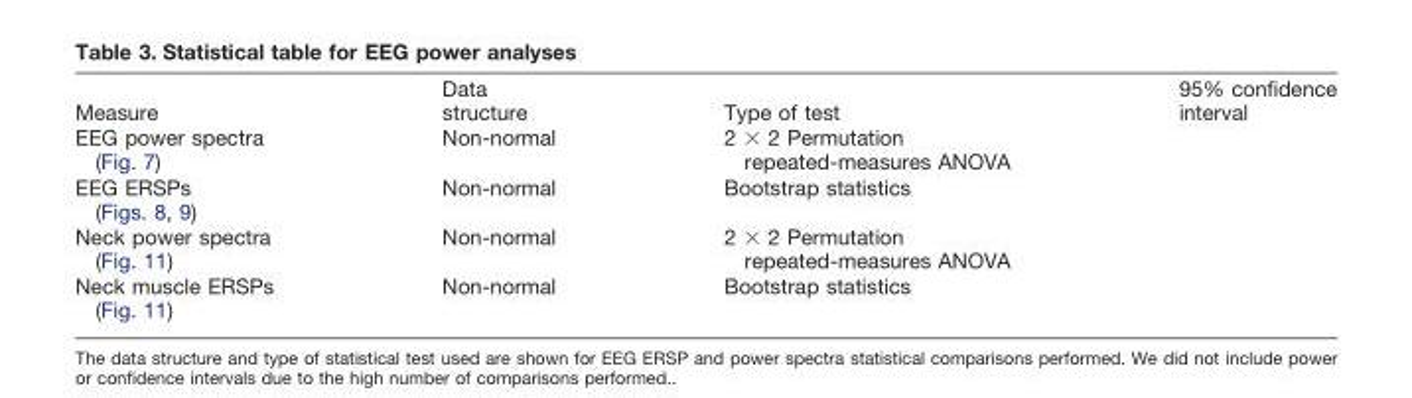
<table><thead><tr><td>Measure</td><td>Data structure</td><td>Type of test</td><td>95% confidence interval</td></tr></thead><tbody><tr><td>EEG power spectra (Fig. 7)</td><td>Non-normal</td><td>2 × 2 Permutation repeated-measures ANOVA</td><td></td></tr><tr><td>EEG ERSPs (Figs. 8, 9)</td><td>Non-normal</td><td>Bootstrap statistics</td><td></td></tr><tr><td>Neck power spectra (Fig. 11)</td><td>Non-normal</td><td>2 × 2 Permutation repeated-measures ANOVA</td><td></td></tr><tr><td>Neck muscle ERSPs (Fig. 11)</td><td>Non-normal</td><td>Bootstrap statistics</td><td></td></tr></tbody></table>